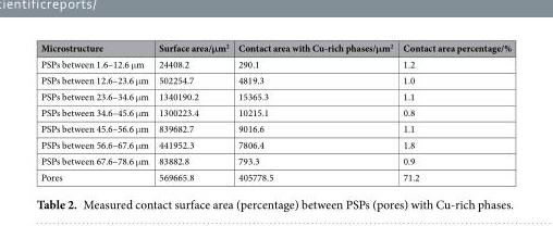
<table><thead><tr><td>Microstructure</td><td>Surface area/μm<sup>2</sup></td><td>Contact area with Cu-rich phases/μm<sup>2</sup></td><td>Contact area percentage/%</td></tr></thead><tbody><tr><td>PSPs between 1.6–12.6 μm</td><td>24408.2</td><td>290.1</td><td>1.2</td></tr><tr><td>PSPs between 12.6–23.6 μm</td><td>502254.7</td><td>4819.3</td><td>1.0</td></tr><tr><td>PSPs between 23.6–34.6 μm</td><td>1340190.2</td><td>15365.3</td><td>1.1</td></tr><tr><td>PSPs between 34.6–45.6 μm</td><td>1300223.4</td><td>10215.1</td><td>0.8</td></tr><tr><td>PSPs between 45.6–56.6 μm</td><td>839682.7</td><td>9016.6</td><td>1.1</td></tr><tr><td>PSPs between 56.6–67.6 μm</td><td>441952.3</td><td>7806.4</td><td>1.8</td></tr><tr><td>PSPs between 67.6–78.6 μm</td><td>83882.8</td><td>793.3</td><td>0.9</td></tr><tr><td>Pores</td><td>569665.8</td><td>405778.5</td><td>71.2</td></tr></tbody></table>